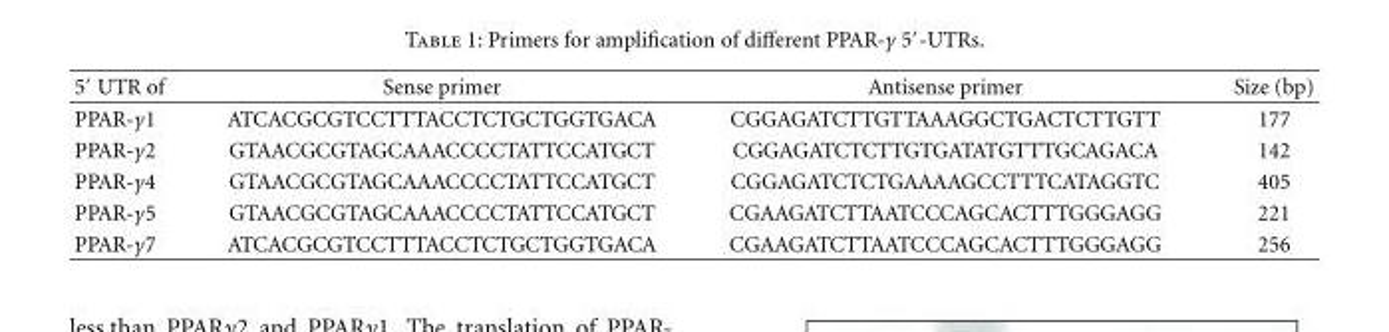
<table><thead><tr><td>5′ UTR of</td><td>Sense primer</td><td>Antisense primer</td><td>Size (bp)</td></tr></thead><tbody><tr><td>PPAR-γ1</td><td>ATCACGCGTCCTTTACCTCTGCTGGTGACA</td><td>CGGAGATCTTGTTAAAGGCTGACTCTTGTT</td><td>177</td></tr><tr><td>PPAR-γ2</td><td>GTAACGCGTAGCAAACCCCTATTCCATGCT</td><td>CGGAGATCTCTTGTGATATGTTTGCAGACA</td><td>142</td></tr><tr><td>PPAR-γ4</td><td>GTAACGCGTAGCAAACCCCTATTCCATGCT</td><td>CGGAGATCTCTGAAAAGCCTTTCATAGGTC</td><td>405</td></tr><tr><td>PPAR-γ5</td><td>GTAACGCGTAGCAAACCCCTATTCCATGCT</td><td>CGAAGATCTTAATCCCAGCACTTTGGGAGG</td><td>221</td></tr><tr><td>PPAR-γ7</td><td>ATCACGCGTCCTTTACCTCTGCTGGTGACA</td><td>CGAAGATCTTAATCCCAGCACTTTGGGAGG</td><td>256</td></tr></tbody></table>